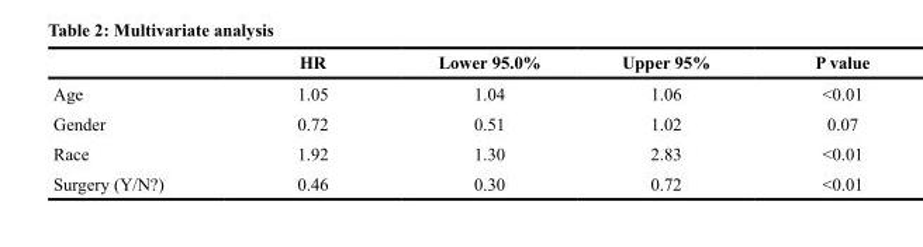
<table><thead><tr><td></td><td>HR</td><td>Lower 95.0%</td><td>Upper 95%</td><td>P value</td></tr></thead><tbody><tr><td>Age</td><td>1.05</td><td>1.04</td><td>1.06</td><td>&lt;0.01</td></tr><tr><td>Gender</td><td>0.72</td><td>0.51</td><td>1.02</td><td>0.07</td></tr><tr><td>Race</td><td>1.92</td><td>1.30</td><td>2.83</td><td>&lt;0.01</td></tr><tr><td>Surgery (Y/N?)</td><td>0.46</td><td>0.30</td><td>0.72</td><td>&lt;0.01</td></tr></tbody></table>